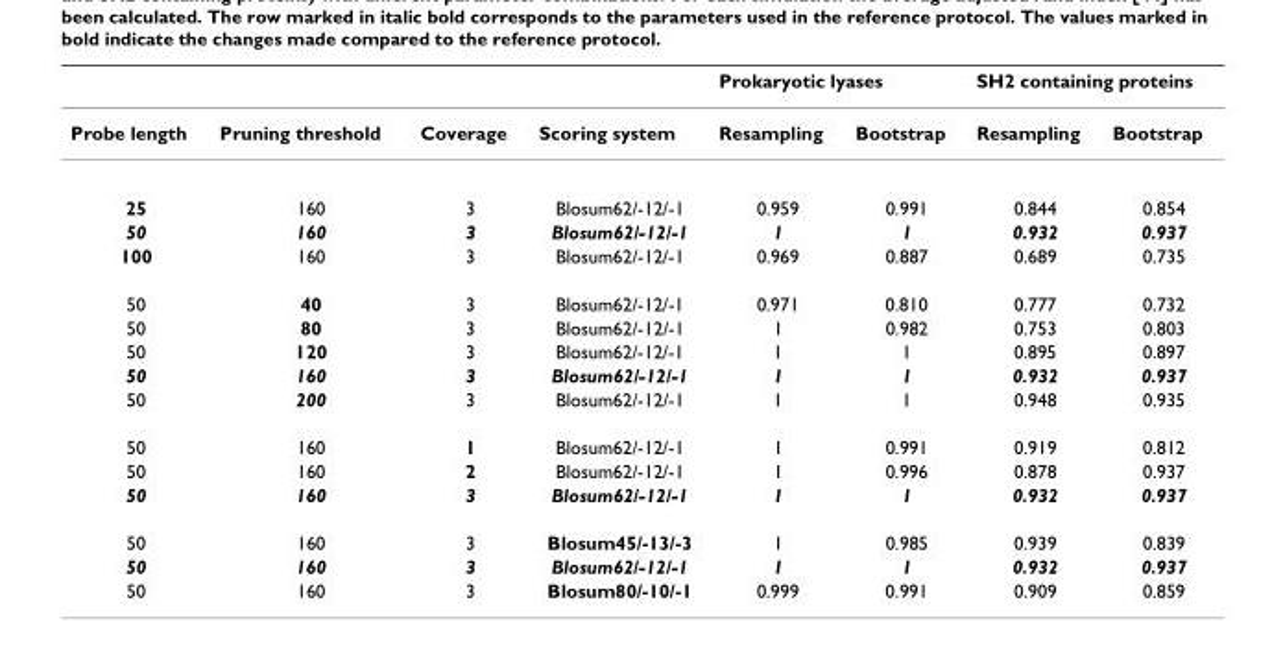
<table><thead><tr><td rowspan="2">Probe length</td><td rowspan="2">Pruning threshold</td><td rowspan="2">Coverage</td><td rowspan="2">Scoring system</td><td colspan="2">Prokaryotic lyases</td><td colspan="2">SH2 containing proteins</td></tr><tr><td>Resampling</td><td>Bootstrap</td><td>Resampling</td><td>Bootstrap</td></tr></thead><tbody><tr><td>25</td><td>160</td><td>3</td><td>Blosum62/-12/-1</td><td>0.959</td><td>0.991</td><td>0.844</td><td>0.854</td></tr><tr><td>50</td><td>160</td><td>3</td><td>Blosum62/-12/-1</td><td>1</td><td>1</td><td>0.932</td><td>0.937</td></tr><tr><td>100</td><td>160</td><td>3</td><td>Blosum62/-12/-1</td><td>0.969</td><td>0.887</td><td>0.689</td><td>0.735</td></tr><tr><td>50</td><td>40</td><td>3</td><td>Blosum62/-12/-1</td><td>0.971</td><td>0.810</td><td>0.777</td><td>0.732</td></tr><tr><td>50</td><td>80</td><td>3</td><td>Blosum62/-12/-1</td><td>1</td><td>0.982</td><td>0.753</td><td>0.803</td></tr><tr><td>50</td><td>120</td><td>3</td><td>Blosum62/-12/-1</td><td>1</td><td>1</td><td>0.895</td><td>0.897</td></tr><tr><td>50</td><td>160</td><td>3</td><td>Blosum62/-12/-1</td><td>1</td><td>1</td><td>0.932</td><td>0.937</td></tr><tr><td>50</td><td>200</td><td>3</td><td>Blosum62/-12/-1</td><td>1</td><td>1</td><td>0.948</td><td>0.935</td></tr><tr><td>50</td><td>160</td><td>1</td><td>Blosum62/-12/-1</td><td>1</td><td>0.991</td><td>0.919</td><td>0.812</td></tr><tr><td>50</td><td>160</td><td>2</td><td>Blosum62/-12/-1</td><td>1</td><td>0.996</td><td>0.878</td><td>0.937</td></tr><tr><td>50</td><td>160</td><td>3</td><td>Blosum62/-12/-1</td><td>1</td><td>1</td><td>0.932</td><td>0.937</td></tr><tr><td>50</td><td>160</td><td>3</td><td>Blosum45/-13/-3</td><td>1</td><td>0.985</td><td>0.939</td><td>0.839</td></tr><tr><td>50</td><td>160</td><td>3</td><td>Blosum62/-12/-1</td><td>1</td><td>1</td><td>0.932</td><td>0.937</td></tr><tr><td>50</td><td>160</td><td>3</td><td>Blosum80/-10/-1</td><td>0.999</td><td>0.991</td><td>0.909</td><td>0.859</td></tr></tbody></table>